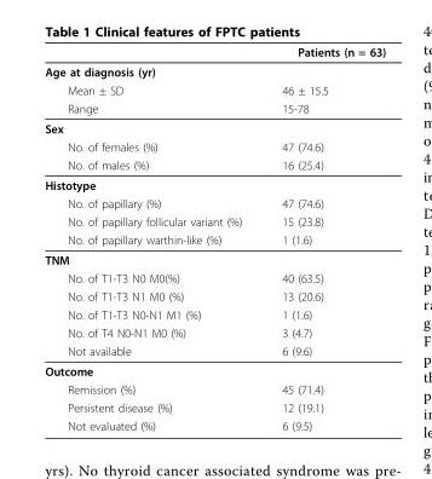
<table><thead><tr><td></td><td>Patients (n = 63)</td></tr></thead><tbody><tr><td colspan="2">Age at diagnosis (yr)</td></tr><tr><td>Mean ± SD</td><td>46 ± 15.5</td></tr><tr><td>Range</td><td>15-78</td></tr><tr><td colspan="2">Sex</td></tr><tr><td>No. of females (%)</td><td>47 (74.6)</td></tr><tr><td>No. of males (%)</td><td>16 (25.4)</td></tr><tr><td colspan="2">Histotype</td></tr><tr><td>No. of papillary (%)</td><td>47 (74.6)</td></tr><tr><td>No. of papillary follicular variant (%)</td><td>15 (23.8)</td></tr><tr><td>No. of papillary warthin-like (%)</td><td>1 (1.6)</td></tr><tr><td colspan="2">TNM</td></tr><tr><td>No. of T1-T3 N0 M0(%)</td><td>40 (63.5)</td></tr><tr><td>No. of T1-T3 N1 M0 (%)</td><td>13 (20.6)</td></tr><tr><td>No. of T1-T3 N0-N1 M1 (%)</td><td>1 (1.6)</td></tr><tr><td>No. of T4 N0-N1 M0 (%)</td><td>3 (4.7)</td></tr><tr><td>Not available</td><td>6 (9.6)</td></tr><tr><td colspan="2">Outcome</td></tr><tr><td>Remission (%)</td><td>45 (71.4)</td></tr><tr><td>Persistent disease (%)</td><td>12 (19.1)</td></tr><tr><td>Not evaluated (%)</td><td>6 (9.5)</td></tr></tbody></table>